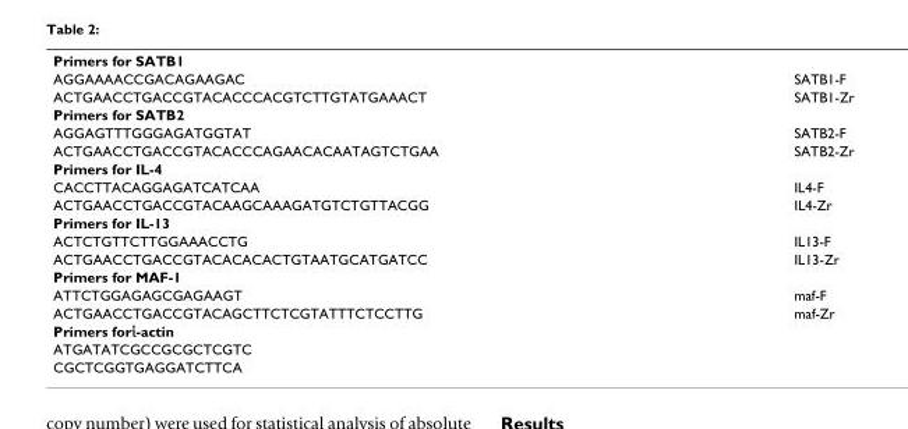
<table><tbody><tr><td colspan="2">Primers for SATB1</td></tr><tr><td>AGGAAAACCGACAGAAGAC</td><td>SATB1-F</td></tr><tr><td>ACTGAACCTGACCGTACACCCACGTCTTGTATGAAACT</td><td>SATB1-Zr</td></tr><tr><td colspan="2">Primers for SATB2</td></tr><tr><td>AGGAGTTTGGGAGATGGTAT</td><td>SATB2-F</td></tr><tr><td>ACTGAACCTGACCGTACACCCAGAACACAATAGTCTGAA</td><td>SATB2-Zr</td></tr><tr><td colspan="2">Primers for IL-4</td></tr><tr><td>CACCTTACAGGAGATCATCAA</td><td>IL4-F</td></tr><tr><td>ACTGAACCTGACCGTACAAGCAAAGATGTCTGTTACGG</td><td>IL4-Zr</td></tr><tr><td colspan="2">Primers for IL-13</td></tr><tr><td>ACTCTGTTCTTGGAAACCTG</td><td>IL13-F</td></tr><tr><td>ACTGAACCTGACCGTACACACACTGTAATGCATGATCC</td><td>IL13-Zr</td></tr><tr><td colspan="2">Primers for MAF-1</td></tr><tr><td>ATTCTGGAGAGCGAGAAGT</td><td>maf-F</td></tr><tr><td>ACTGAACCTGACCGTACAGCTTCTCGTATTTCTCCTTG</td><td>maf-Zr</td></tr><tr><td colspan="2">Primers forί-actin</td></tr><tr><td colspan="2">ATGATATCGCCGCGCTCGTC</td></tr><tr><td>CGCTCGGTGAGGATCTTCA</td><td></td></tr></tbody></table>